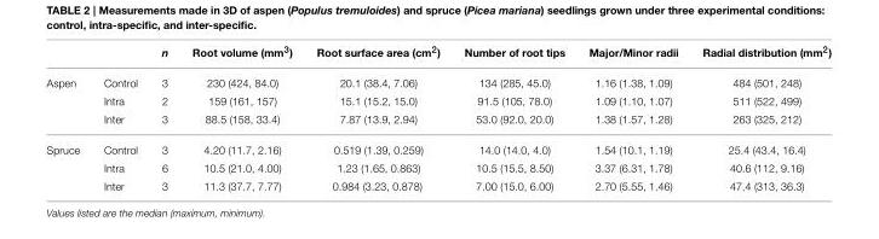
<table><thead><tr><td></td><td></td><td>n</td><td>Root volume (mm<sup>3</sup>)</td><td>Root surface area (cm<sup>2</sup>)</td><td>Number of root tips</td><td>Major/Minor radii</td><td>Radial distribution (mm<sup>2</sup>)</td></tr></thead><tbody><tr><td rowspan="3">Aspen</td><td>Control</td><td>3</td><td>230 (424, 84.0)</td><td>20.1 (38.4, 7.06)</td><td>134 (285, 45.0)</td><td>1.16 (1.38, 1.09)</td><td>484 (501, 248)</td></tr><tr><td>Intra</td><td>2</td><td>159 (161, 157)</td><td>15.1 (15.2, 15.0)</td><td>91.5 (105, 78.0)</td><td>1.09 (1.10, 1.07)</td><td>511 (522, 499)</td></tr><tr><td>Inter</td><td>3</td><td>88.5 (158, 33.4)</td><td>7.87 (13.9, 2.94)</td><td>53.0 (92.0, 20.0)</td><td>1.38 (1.57, 1.28)</td><td>263 (325, 212)</td></tr><tr><td rowspan="3">Spruce</td><td>Control</td><td>3</td><td>4.20 (11.7, 2.16)</td><td>0.519 (1.39, 0.259)</td><td>14.0 (14.0, 4.0)</td><td>1.54 (10.1, 1.19)</td><td>25.4 (43.4, 16.4)</td></tr><tr><td>Intra</td><td>6</td><td>10.5 (21.0, 4.00)</td><td>1.23 (1.65, 0.863)</td><td>10.5 (15.5, 8.50)</td><td>3.37 (6.31, 1.78)</td><td>40.6 (112, 9.16)</td></tr><tr><td>Inter</td><td>3</td><td>11.3 (37.7, 7.77)</td><td>0.984 (3.23, 0.878)</td><td>7.00 (15.0, 6.00)</td><td>2.70 (5.55, 1.46)</td><td>47.4 (313, 36.3)</td></tr></tbody></table>